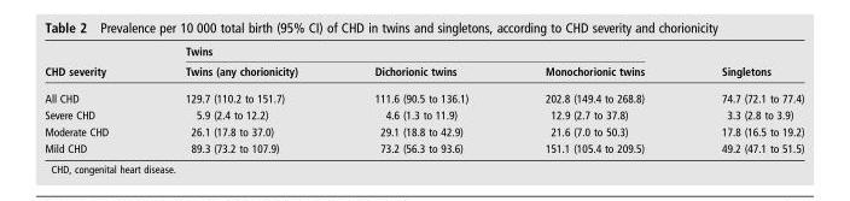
<table><thead><tr><td rowspan="2">CHD severity</td><td colspan="3">Twins</td><td rowspan="2">Singletons</td></tr><tr><td>Twins (any chorionicity)</td><td>Dichorionic twins</td><td>Monochorionic twins</td></tr></thead><tbody><tr><td>All CHD</td><td>129.7 (110.2 to 151.7)</td><td>111.6 (90.5 to 136.1)</td><td>202.8 (149.4 to 268.8)</td><td>74.7 (72.1 to 77.4)</td></tr><tr><td>Severe CHD</td><td>5.9 (2.4 to 12.2)</td><td>4.6 (1.3 to 11.9)</td><td>12.9 (2.7 to 37.8)</td><td>3.3 (2.8 to 3.9)</td></tr><tr><td>Moderate CHD</td><td>26.1 (17.8 to 37.0)</td><td>29.1 (18.8 to 42.9)</td><td>21.6 (7.0 to 50.3)</td><td>17.8 (16.5 to 19.2)</td></tr><tr><td>Mild CHD</td><td>89.3 (73.2 to 107.9)</td><td>73.2 (56.3 to 93.6)</td><td>151.1 (105.4 to 209.5)</td><td>49.2 (47.1 to 51.5)</td></tr></tbody></table>